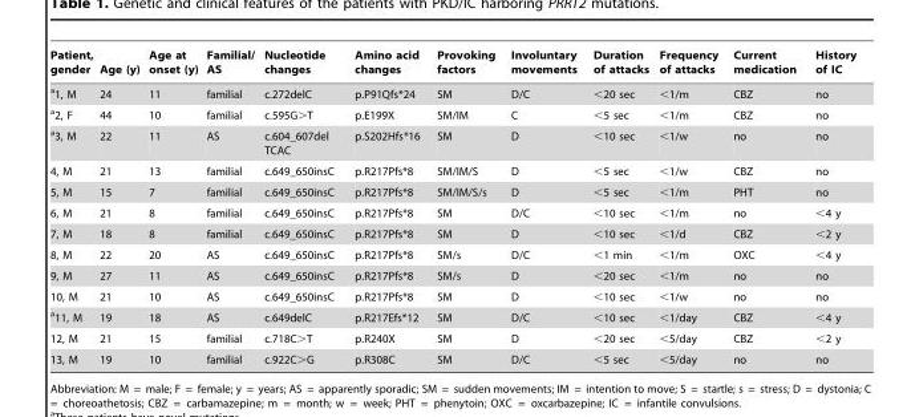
<table><thead><tr><td>Patient, gender</td><td>Age (y)</td><td>Age at onset (y)</td><td>Familial/ AS</td><td>Nucleotide changes</td><td>Amino acid changes</td><td>Provoking factors</td><td>Involuntary movements</td><td>Duration of attacks</td><td>Frequency of attacks</td><td>Current medication</td><td>History of IC</td></tr></thead><tbody><tr><td>a1, M</td><td>24</td><td>11</td><td>familial</td><td>c.272delC</td><td>p.P91Qfs*24</td><td>SM</td><td>D/C</td><td>&lt;20 sec</td><td>&lt;1/m</td><td>CBZ</td><td>no</td></tr><tr><td>a2, F</td><td>44</td><td>10</td><td>familial</td><td>c.595G&gt;T</td><td>p.E199X</td><td>SM/IM</td><td>C</td><td>&lt;5 sec</td><td>&lt;1/m</td><td>CBZ</td><td>no</td></tr><tr><td>a3, M</td><td>22</td><td>11</td><td>AS</td><td>c.604_607del TCAC</td><td>p.S202Hfs*16</td><td>SM</td><td>D</td><td>&lt;10 sec</td><td>&lt;1/w</td><td>no</td><td>no</td></tr><tr><td>4, M</td><td>21</td><td>13</td><td>familial</td><td>c.649_650insC</td><td>p.R217Pfs*8</td><td>SM/IM/S</td><td>D</td><td>&lt;5 sec</td><td>&lt;1/w</td><td>CBZ</td><td>no</td></tr><tr><td>5, M</td><td>15</td><td>7</td><td>familial</td><td>c.649_650insC</td><td>p.R217Pfs*8</td><td>SM/IM/S/s</td><td>D</td><td>&lt;5 sec</td><td>&lt;1/m</td><td>PHT</td><td>no</td></tr><tr><td>6, M</td><td>21</td><td>8</td><td>familial</td><td>c.649_650insC</td><td>p.R217Pfs*8</td><td>SM</td><td>D/C</td><td>&lt;10 sec</td><td>&lt;1/m</td><td>no</td><td>&lt;4 y</td></tr><tr><td>7, M</td><td>18</td><td>8</td><td>familial</td><td>c.649_650insC</td><td>p.R217Pfs*8</td><td>SM</td><td>D</td><td>&lt;10 sec</td><td>&lt;1/d</td><td>CBZ</td><td>&lt;2 y</td></tr><tr><td>8, M</td><td>22</td><td>20</td><td>AS</td><td>c.649_650insC</td><td>p.R217Pfs*8</td><td>SM/s</td><td>D/C</td><td>&lt;1 min</td><td>&lt;1/m</td><td>OXC</td><td>&lt;4 y</td></tr><tr><td>9, M</td><td>27</td><td>11</td><td>AS</td><td>c.649_650insC</td><td>p.R217Pfs*8</td><td>SM/s</td><td>D</td><td>&lt;20 sec</td><td>&lt;1/m</td><td>no</td><td>no</td></tr><tr><td>10, M</td><td>21</td><td>10</td><td>AS</td><td>c.649_650insC</td><td>p.R217Pfs*8</td><td>SM</td><td>D</td><td>&lt;10 sec</td><td>&lt;1/w</td><td>no</td><td>no</td></tr><tr><td>a11, M</td><td>19</td><td>18</td><td>AS</td><td>c.649delC</td><td>p.R217Efs*12</td><td>SM</td><td>D/C</td><td>&lt;10 sec</td><td>&lt;1/day</td><td>CBZ</td><td>&lt;4 y</td></tr><tr><td>12, M</td><td>21</td><td>15</td><td>familial</td><td>c.718C&gt;T</td><td>p.R240X</td><td>SM</td><td>D</td><td>&lt;20 sec</td><td>&lt;5/day</td><td>CBZ</td><td>&lt;2 y</td></tr><tr><td>13, M</td><td>19</td><td>10</td><td>familial</td><td>c.922C&gt;G</td><td>p.R308C</td><td>SM</td><td>D/C</td><td>&lt;5 sec</td><td>&lt;5/day</td><td>no</td><td>no</td></tr></tbody></table>